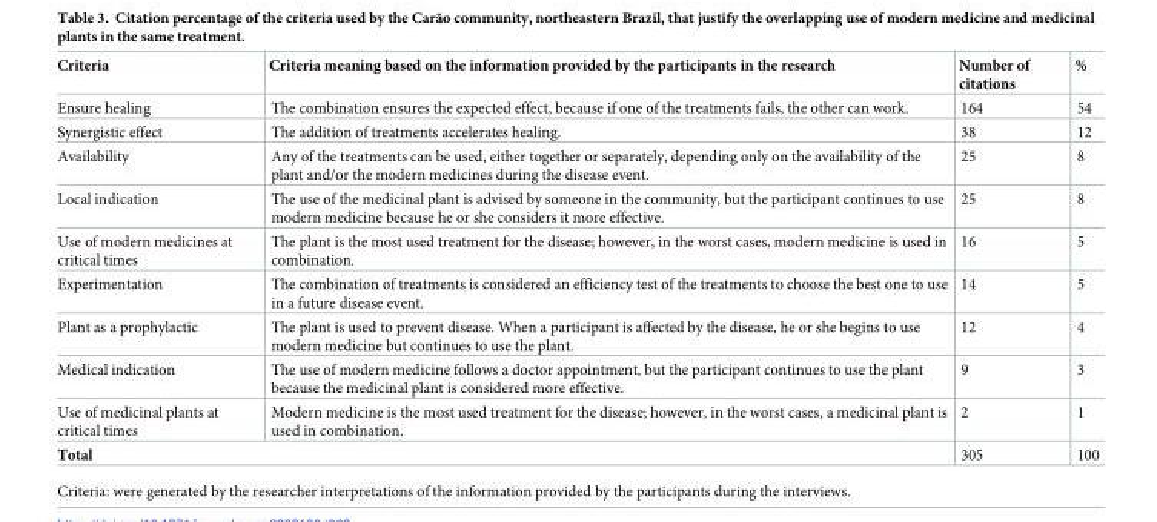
<table><thead><tr><td>Criteria</td><td>Criteria meaning based on the information provided by the participants in the research</td><td>Number of citations</td><td>%</td></tr></thead><tbody><tr><td>Ensure healing</td><td>The combination ensures the expected effect, because if one of the treatments fails, the other can work.</td><td>164</td><td>54</td></tr><tr><td>Synergistic effect</td><td>The addition of treatments accelerates healing.</td><td>38</td><td>12</td></tr><tr><td>Availability</td><td>Any of the treatments can be used, either together or separately, depending only on the availability of the plant and/or the modern medicines during the disease event.</td><td>25</td><td>8</td></tr><tr><td>Local indication</td><td>The use of the medicinal plant is advised by someone in the community, but the participant continues to use modern medicine because he or she considers it more effective.</td><td>25</td><td>8</td></tr><tr><td>Use of modern medicines at critical times</td><td>The plant is the most used treatment for the disease; however, in the worst cases, modern medicine is used in combination.</td><td>16</td><td>5</td></tr><tr><td>Experimentation</td><td>The combination of treatments is considered an efficiency test of the treatments to choose the best one to use in a future disease event.</td><td>14</td><td>5</td></tr><tr><td>Plant as a prophylactic</td><td>The plant is used to prevent disease. When a participant is affected by the disease, he or she begins to use modern medicine but continues to use the plant.</td><td>12</td><td>4</td></tr><tr><td>Medical indication</td><td>The use of modern medicine follows a doctor appointment, but the participant continues to use the plant because the medicinal plant is considered more effective.</td><td>9</td><td>3</td></tr><tr><td>Use of medicinal plants at critical times</td><td>Modern medicine is the most used treatment for the disease; however, in the worst cases, a medicinal plant is used in combination.</td><td>2</td><td>1</td></tr><tr><td colspan="2">Total</td><td>305</td><td>100</td></tr></tbody></table>